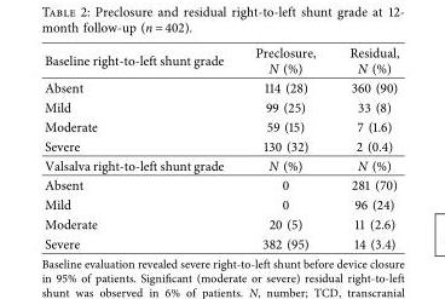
<table><thead><tr><td>Baseline right-to-left shunt grade</td><td>Preclosure, N (%)</td><td>Residual, N (%)</td></tr></thead><tbody><tr><td>Absent</td><td>114 (28)</td><td>360 (90)</td></tr><tr><td>Mild</td><td>99 (25)</td><td>33 (8)</td></tr><tr><td>Moderate</td><td>59 (15)</td><td>7 (1.6)</td></tr><tr><td>Severe</td><td>130 (32)</td><td>2 (0.4)</td></tr><tr><td>Valsalva right-to-left shunt grade</td><td>N (%)</td><td>N (%)</td></tr><tr><td>Absent</td><td>0</td><td>281 (70)</td></tr><tr><td>Mild</td><td>0</td><td>96 (24)</td></tr><tr><td>Moderate</td><td>20 (5)</td><td>11 (2.6)</td></tr><tr><td>Severe</td><td>382 (95)</td><td>14 (3.4)</td></tr></tbody></table>